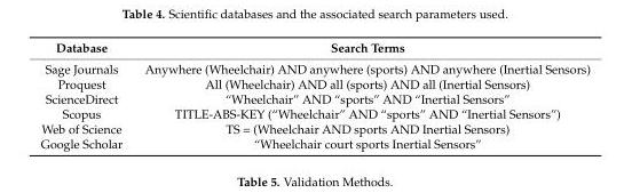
<table><thead><tr><td>Database</td><td>Search Terms</td></tr></thead><tbody><tr><td>Sage Journals</td><td>Anywhere (Wheelchair) AND anywhere (sports) AND anywhere (Inertial Sensors)</td></tr><tr><td>Proquest</td><td>All (Wheelchair) AND all (sports) AND all (Inertial Sensors)</td></tr><tr><td>ScienceDirect</td><td>“Wheelchair” AND “sports” AND “Inertial Sensors”</td></tr><tr><td>Scopus</td><td>TITLE-ABS-KEY (“Wheelchair” AND “sports” AND “Inertial Sensors”)</td></tr><tr><td>Web of Science</td><td>TS = (Wheelchair AND sports AND Inertial Sensors)</td></tr><tr><td>Google Scholar</td><td>“Wheelchair court sports Inertial Sensors”</td></tr></tbody></table>